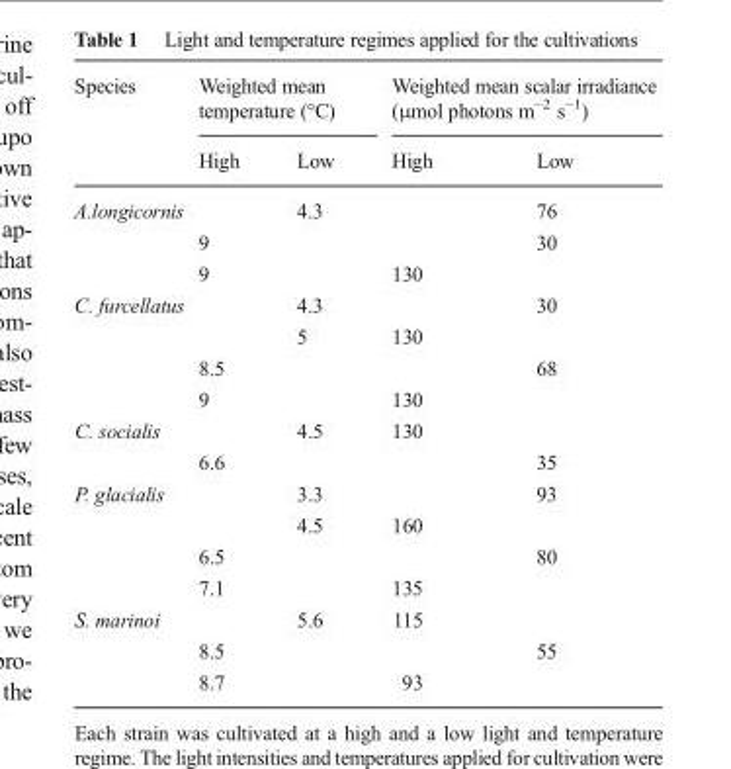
<table><thead><tr><td rowspan="2">Species</td><td colspan="2">Weighted mean temperature (°C)</td><td colspan="2">Weighted mean scalar irradiance (μmol photons m<sup>−2</sup> s<sup>−1</sup>)</td></tr><tr><td>High</td><td>Low</td><td>High</td><td>Low</td></tr></thead><tbody><tr><td rowspan="3">A.longicornis</td><td></td><td>4.3</td><td></td><td>76</td></tr><tr><td>9</td><td></td><td></td><td>30</td></tr><tr><td>9</td><td></td><td>130</td><td></td></tr><tr><td rowspan="4">C. furcellatus</td><td></td><td>4.3</td><td></td><td>30</td></tr><tr><td></td><td>5</td><td>130</td><td></td></tr><tr><td>8.5</td><td></td><td></td><td>68</td></tr><tr><td>9</td><td></td><td>130</td><td></td></tr><tr><td rowspan="2">C. socialis</td><td></td><td>4.5</td><td>130</td><td></td></tr><tr><td>6.6</td><td></td><td></td><td>35</td></tr><tr><td rowspan="4">P. glacialis</td><td></td><td>3.3</td><td></td><td>93</td></tr><tr><td></td><td>4.5</td><td>160</td><td></td></tr><tr><td>6.5</td><td></td><td></td><td>80</td></tr><tr><td>7.1</td><td></td><td>135</td><td></td></tr><tr><td rowspan="3">S. marinoi</td><td></td><td>5.6</td><td>115</td><td></td></tr><tr><td>8.5</td><td></td><td></td><td>55</td></tr><tr><td>8.7</td><td></td><td>93</td><td></td></tr></tbody></table>